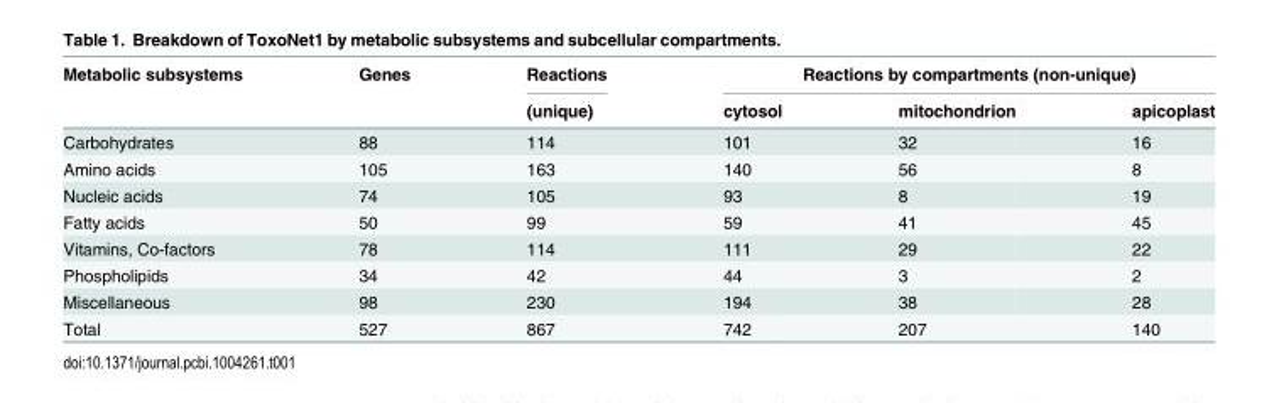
<table><thead><tr><td rowspan="2">Metabolic subsystems</td><td rowspan="2">Genes</td><td rowspan="2">Reactions (unique)</td><td colspan="3">Reactions by compartments (non-unique)</td></tr><tr><td>cytosol</td><td>mitochondrion</td><td>apicoplast</td></tr></thead><tbody><tr><td>Carbohydrates</td><td>88</td><td>114</td><td>101</td><td>32</td><td>16</td></tr><tr><td>Amino acids</td><td>105</td><td>163</td><td>140</td><td>56</td><td>8</td></tr><tr><td>Nucleic acids</td><td>74</td><td>105</td><td>93</td><td>8</td><td>19</td></tr><tr><td>Fatty acids</td><td>50</td><td>99</td><td>59</td><td>41</td><td>45</td></tr><tr><td>Vitamins, Co-factors</td><td>78</td><td>114</td><td>111</td><td>29</td><td>22</td></tr><tr><td>Phospholipids</td><td>34</td><td>42</td><td>44</td><td>3</td><td>2</td></tr><tr><td>Miscellaneous</td><td>98</td><td>230</td><td>194</td><td>38</td><td>28</td></tr><tr><td>Total</td><td>527</td><td>867</td><td>742</td><td>207</td><td>140</td></tr></tbody></table>